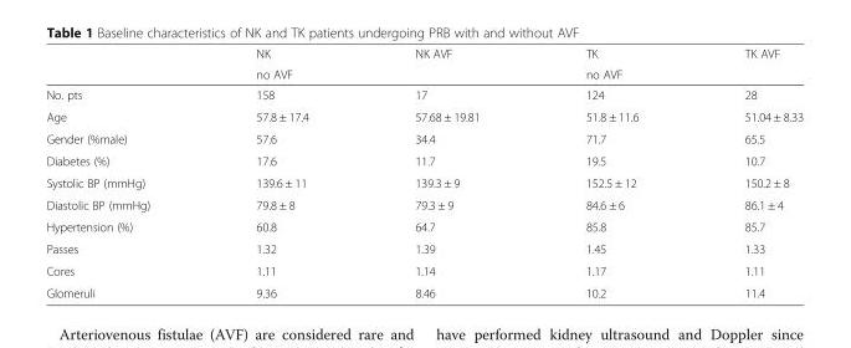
<table><thead><tr><td rowspan="2"></td><td rowspan="2">NK no AVF</td><td rowspan="2">NK AVF</td><td rowspan="2">TK no AVF</td><td rowspan="2">TK AVF</td></tr><tr></tr></thead><tbody><tr><td>No. pts</td><td>158</td><td>17</td><td>124</td><td>28</td></tr><tr><td>Age</td><td>57.8 ± 17.4</td><td>57.68 ± 19.81</td><td>51.8 ± 11.6</td><td>51.04 ± 8.33</td></tr><tr><td>Gender (%male)</td><td>57.6</td><td>34.4</td><td>71.7</td><td>65.5</td></tr><tr><td>Diabetes (%)</td><td>17.6</td><td>11.7</td><td>19.5</td><td>10.7</td></tr><tr><td>Systolic BP (mmHg)</td><td>139.6 ± 11</td><td>139.3 ± 9</td><td>152.5 ± 12</td><td>150.2 ± 8</td></tr><tr><td>Diastolic BP (mmHg)</td><td>79.8 ± 8</td><td>79.3 ± 9</td><td>84.6 ± 6</td><td>86.1 ± 4</td></tr><tr><td>Hypertension (%)</td><td>60.8</td><td>64.7</td><td>85.8</td><td>85.7</td></tr><tr><td>Passes</td><td>1.32</td><td>1.39</td><td>1.45</td><td>1.33</td></tr><tr><td>Cores</td><td>1.11</td><td>1.14</td><td>1.17</td><td>1.11</td></tr><tr><td>Glomeruli</td><td>9.36</td><td>8.46</td><td>10.2</td><td>11.4</td></tr></tbody></table>